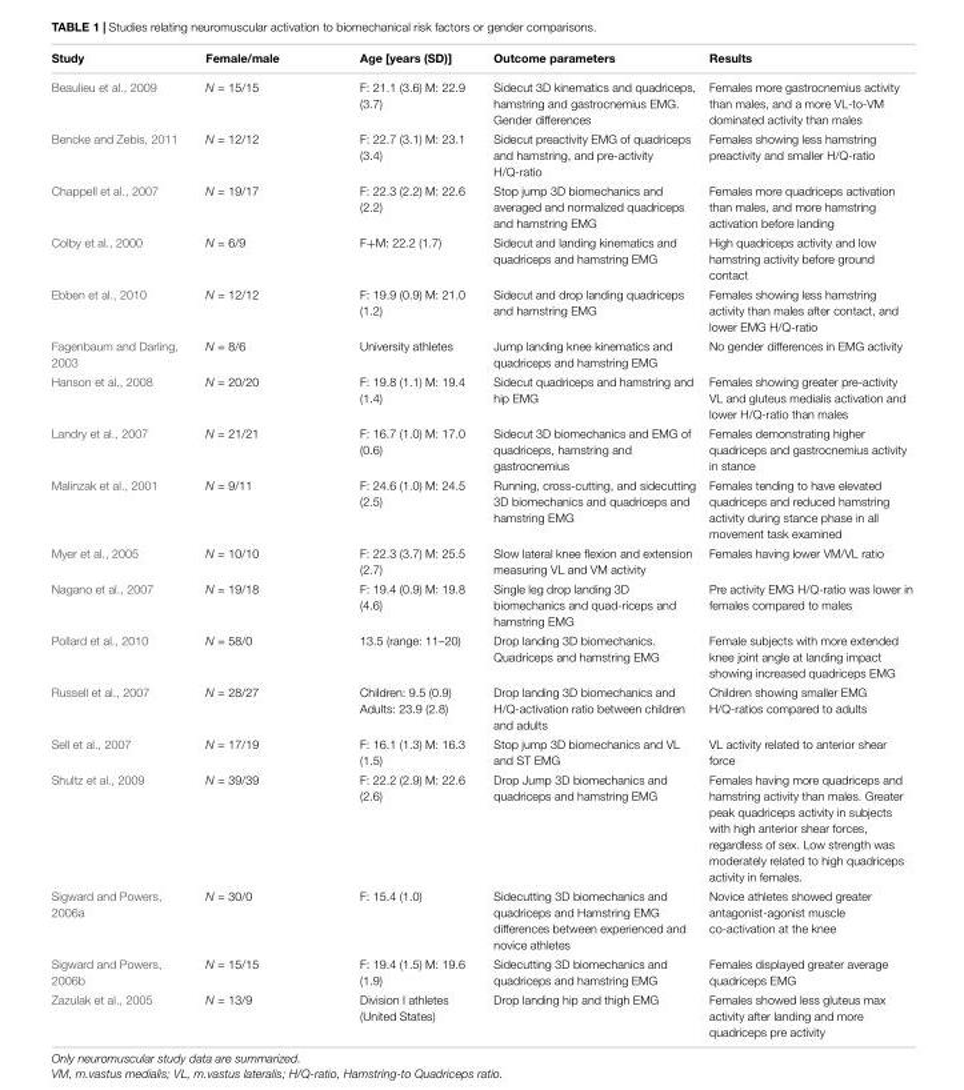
<table><thead><tr><td>Study</td><td>Female/male</td><td>Age [years (SD)]</td><td>Outcome parameters</td><td>Results</td></tr></thead><tbody><tr><td>Beaulieu et al., 2009</td><td>N = 15/15</td><td>F: 21.1 (3.6) M: 22.9 (3.7)</td><td>Sidecut 3D kinematics and quadriceps, hamstring and gastrocnemius EMG. Gender differences</td><td>Females more gastrocnemius activity than males, and a more VL-to-VM dominated activity than males</td></tr><tr><td>Bencke and Zebis, 2011</td><td>N = 12/12</td><td>F: 22.7 (3.1) M: 23.1 (3.4)</td><td>Sidecut preactivity EMG of quadriceps and hamstring, and pre-activity H/Q-ratio</td><td>Females showing less hamstring preactivity and smaller H/Q-ratio</td></tr><tr><td>Chappell et al., 2007</td><td>N = 19/17</td><td>F: 22.3 (2.2) M: 22.6 (2.2)</td><td>Stop jump 3D biomechanics and averaged and normalized quadriceps and hamstring EMG</td><td>Females more quadriceps activation than males, and more hamstring activation before landing</td></tr><tr><td>Colby et al., 2000</td><td>N = 6/9</td><td>F+M: 22.2 (1.7)</td><td>Sidecut and landing kinematics and quadriceps and hamstring EMG</td><td>High quadriceps activity and low hamstring activity before ground contact</td></tr><tr><td>Ebben et al., 2010</td><td>N = 12/12</td><td>F: 19.9 (0.9) M: 21.0 (1.2)</td><td>Sidecut and drop landing quadriceps and hamstring EMG</td><td>Females showing less hamstring activity than males after contact, and lower EMG H/Q-ratio</td></tr><tr><td>Fagenbaum and Darling, 2003</td><td>N = 8/6</td><td>University athletes</td><td>Jump landing knee kinematics and quadriceps and hamstring EMG</td><td>No gender differences in EMG activity</td></tr><tr><td>Hanson et al., 2008</td><td>N = 20/20</td><td>F: 19.8 (1.1) M: 19.4 (1.4)</td><td>Sidecut quadriceps and hamstring and hip EMG</td><td>Females showing greater pre-activity VL and gluteus medialis activation and lower H/Q-ratio than males</td></tr><tr><td>Landry et al., 2007</td><td>N = 21/21</td><td>F: 16.7 (1.0) M: 17.0 (0.6)</td><td>Sidecut 3D biomechanics and EMG of quadriceps, hamstring and gastrocnemius</td><td>Females demonstrating higher quadriceps and gastrocnemius activity in stance</td></tr><tr><td>Malinzak et al., 2001</td><td>N = 9/11</td><td>F: 24.6 (1.0) M: 24.5 (2.5)</td><td>Running, cross-cutting, and sidecutting 3D biomechanics and quadriceps and hamstring EMG</td><td>Females tending to have elevated quadriceps and reduced hamstring activity during stance phase in all movement task examined</td></tr><tr><td>Myer et al., 2005</td><td>N = 10/10</td><td>F: 22.3 (3.7) M: 25.5 (2.7)</td><td>Slow lateral knee flexion and extension measuring VL and VM activity</td><td>Females having lower VM/VL ratio</td></tr><tr><td>Nagano et al., 2007</td><td>N = 19/18</td><td>F: 19.4 (0.9) M: 19.8 (4.6)</td><td>Single leg drop landing 3D biomechanics and quad-riceps and hamstring EMG</td><td>Pre activity EMG H/Q-ratio was lower in females compared to males</td></tr><tr><td>Pollard et al., 2010</td><td>N = 58/0</td><td>13.5 (range: 11–20)</td><td>Drop landing 3D biomechanics. Quadriceps and hamstring EMG</td><td>Female subjects with more extended knee joint angle at landing impact showing increased quadriceps EMG</td></tr><tr><td>Russell et al., 2007</td><td>N = 28/27</td><td>Children: 9.5 (0.9) Adults: 23.9 (2.8)</td><td>Drop landing 3D biomechanics and H/Q-activation ratio between children and adults</td><td>Children showing smaller EMG H/Q-ratios compared to adults</td></tr><tr><td>Sell et al., 2007</td><td>N = 17/19</td><td>F: 16.1 (1.3) M: 16.3 (1.5)</td><td>Stop jump 3D biomechanics and VL and ST EMG</td><td>VL activity related to anterior shear force</td></tr><tr><td>Shultz et al., 2009</td><td>N = 39/39</td><td>F: 22.2 (2.9) M: 22.6 (2.6)</td><td>Drop Jump 3D biomechanics and quadriceps and hamstring EMG</td><td>Females having more quadriceps and hamstring activity than males. Greater peak quadriceps activity in subjects with high anterior shear forces, regardless of sex. Low strength was moderately related to high quadriceps activity in females.</td></tr><tr><td>Sigward and Powers, 2006a</td><td>N = 30/0</td><td>F: 15.4 (1.0)</td><td>Sidecutting 3D biomechanics and quadriceps and Hamstring EMG differences between experienced and novice athletes</td><td>Novice athletes showed greater antagonist-agonist muscle co-activation at the knee</td></tr><tr><td>Sigward and Powers, 2006b</td><td>N = 15/15</td><td>F: 19.4 (1.5) M: 19.6 (1.9)</td><td>Sidecutting 3D biomechanics and quadriceps and hamstring EMG</td><td>Females displayed greater average quadriceps EMG</td></tr><tr><td>Zazulak et al., 2005</td><td>N = 13/9</td><td>Division I athletes (United States)</td><td>Drop landing hip and thigh EMG</td><td>Females showed less gluteus max activity after landing and more quadriceps pre activity</td></tr></tbody></table>